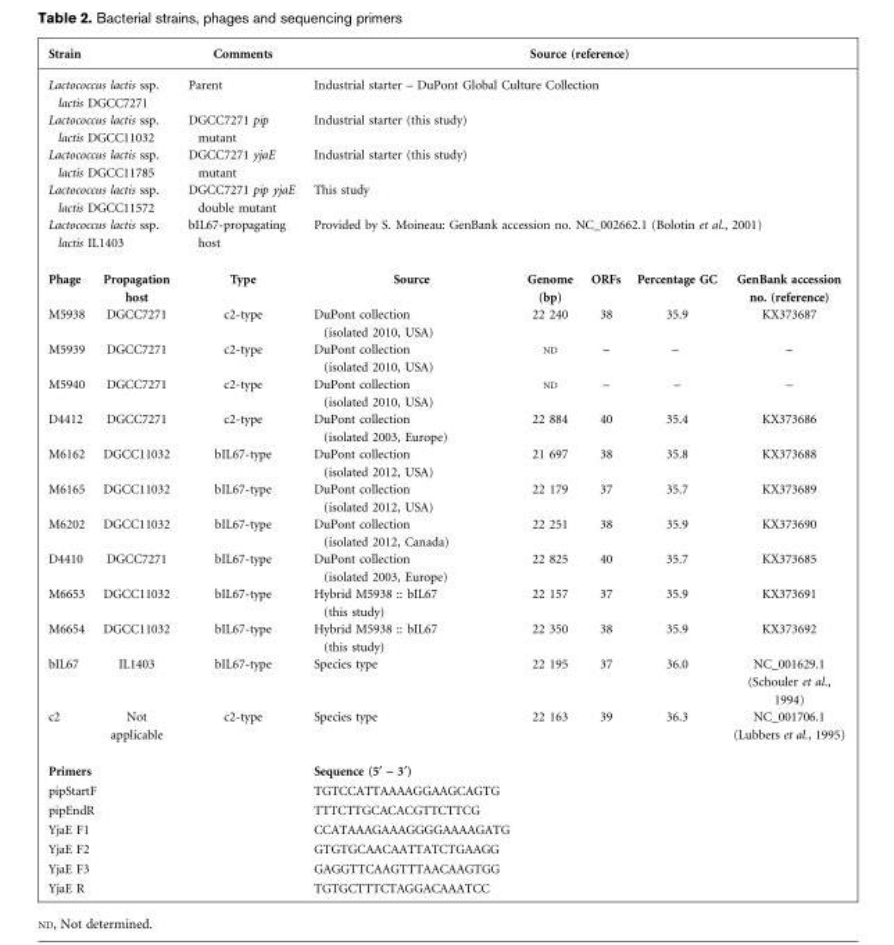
<table><thead><tr><td colspan="2">Strain</td><td>Comments</td><td colspan="5">Source (reference)</td></tr></thead><tbody><tr><td colspan="2">Lactococcus lactis ssp. lactis DGCC7271</td><td>Parent</td><td colspan="5">Industrial starter – DuPont Global Culture Collection</td></tr><tr><td colspan="2">Lactococcus lactis ssp. lactis DGCC11032</td><td>DGCC7271 pip mutant</td><td colspan="5">Industrial starter (this study)</td></tr><tr><td colspan="2">Lactococcus lactis ssp. lactis DGCC11785</td><td>DGCC7271 yjaE mutant</td><td colspan="5">Industrial starter (this study)</td></tr><tr><td colspan="2">Lactococcus lactis ssp. lactis DGCC11572</td><td>DGCC7271 pip yjaE double mutant</td><td colspan="5">This study</td></tr><tr><td colspan="2">Lactococcus lactis ssp. lactis IL1403</td><td>bIL67-propagating host</td><td colspan="5">Provided by S. Moineau: GenBank accession no. NC_002662.1 (Bolotin et al., 2001)</td></tr><tr><td>Phage</td><td>Propagation host</td><td>Type</td><td>Source</td><td>Genome (bp)</td><td>ORFs</td><td>Percentage GC</td><td>GenBank accession no. (reference)</td></tr><tr><td>M5938</td><td>DGCC7271</td><td>c2-type</td><td>DuPont collection (isolated 2010, USA)</td><td>22 240</td><td>38</td><td>35.9</td><td>KX373687</td></tr><tr><td>M5939</td><td>DGCC7271</td><td>c2-type</td><td>DuPont collection (isolated 2010, USA)</td><td>ND</td><td>–</td><td>–</td><td>–</td></tr><tr><td>M5940</td><td>DGCC7271</td><td>c2-type</td><td>DuPont collection (isolated 2010, USA)</td><td>ND</td><td>–</td><td>–</td><td>–</td></tr><tr><td>D4412</td><td>DGCC7271</td><td>c2-type</td><td>DuPont collection (isolated 2003, Europe)</td><td>22 884</td><td>40</td><td>35.4</td><td>KX373686</td></tr><tr><td>M6162</td><td>DGCC11032</td><td>bIL67-type</td><td>DuPont collection (isolated 2012, USA)</td><td>21 697</td><td>38</td><td>35.8</td><td>KX373688</td></tr><tr><td>M6165</td><td>DGCC11032</td><td>bIL67-type</td><td>DuPont collection (isolated 2012, USA)</td><td>22 179</td><td>37</td><td>35.7</td><td>KX373689</td></tr><tr><td>M6202</td><td>DGCC11032</td><td>bIL67-type</td><td>DuPont collection (isolated 2012, Canada)</td><td>22 251</td><td>38</td><td>35.9</td><td>KX373690</td></tr><tr><td>D4410</td><td>DGCC7271</td><td>bIL67-type</td><td>DuPont collection (isolated 2003, Europe)</td><td>22 825</td><td>40</td><td>35.7</td><td>KX373685</td></tr><tr><td>M6653</td><td>DGCC11032</td><td>bIL67-type</td><td>Hybrid M5938 :: bIL67 (this study)</td><td>22 157</td><td>37</td><td>35.9</td><td>KX373691</td></tr><tr><td>M6654</td><td>DGCC11032</td><td>bIL67-type</td><td>Hybrid M5938 :: bIL67 (this study)</td><td>22 350</td><td>38</td><td>35.9</td><td>KX373692</td></tr><tr><td>bIL67</td><td>IL1403</td><td>bIL67-type</td><td>Species type</td><td>22 195</td><td>37</td><td>36.0</td><td>NC_001629.1 (Schouler et al., 1994)</td></tr><tr><td>c2</td><td>Not applicable</td><td>c2-type</td><td>Species type</td><td>22 163</td><td>39</td><td>36.3</td><td>NC_001706.1 (Lubbers et al., 1995)</td></tr><tr><td colspan="3">Primers</td><td colspan="5">Sequence (5¢ – 3¢)</td></tr><tr><td colspan="3">pipStartF</td><td colspan="5">TGTCCATTAAAAGGAAGCAGTG</td></tr><tr><td colspan="3">pipEndR</td><td colspan="5">TTTCTTGCACACGTTCTTCG</td></tr><tr><td colspan="3">YjaE F1</td><td colspan="5">CCATAAAGAAAGGGGAAAAGATG</td></tr><tr><td colspan="3">YjaE F2</td><td colspan="5">GTGTGCAACAATTATCTGAAGG</td></tr><tr><td colspan="3">YjaE F3</td><td colspan="5">GAGGTTCAAGTTTAACAAGTGG</td></tr><tr><td colspan="3">YjaE R</td><td colspan="5">TGTGCTTTCTAGGACAAATCC</td></tr></tbody></table>